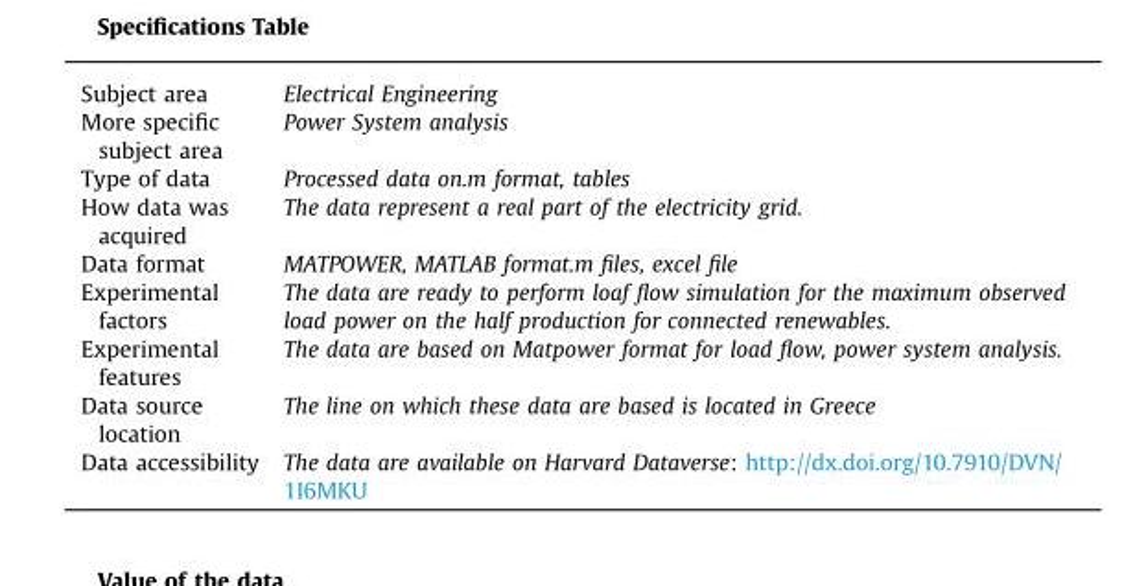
<table><tbody><tr><td>Subject area</td><td>Electrical Engineering</td></tr><tr><td>More specific subject area</td><td>Power System analysis</td></tr><tr><td>Type of data</td><td>Processed data on.m format, tables</td></tr><tr><td>How data was acquired</td><td>The data represent a real part of the electricity grid.</td></tr><tr><td>Data format</td><td>MATPOWER, MATLAB format.m files, excel file</td></tr><tr><td>Experimental factors</td><td>The data are ready to perform loaf flow simulation for the maximum observed load power on the half production for connected renewables.</td></tr><tr><td>Experimental features</td><td>The data are based on Matpower format for load flow, power system analysis.</td></tr><tr><td>Data source location</td><td>The line on which these data are based is located in Greece</td></tr><tr><td>Data accessibility</td><td>The data are available on Harvard Dataverse: http://dx.doi.org/10.7910/DVN/ 1I6MKU</td></tr></tbody></table>